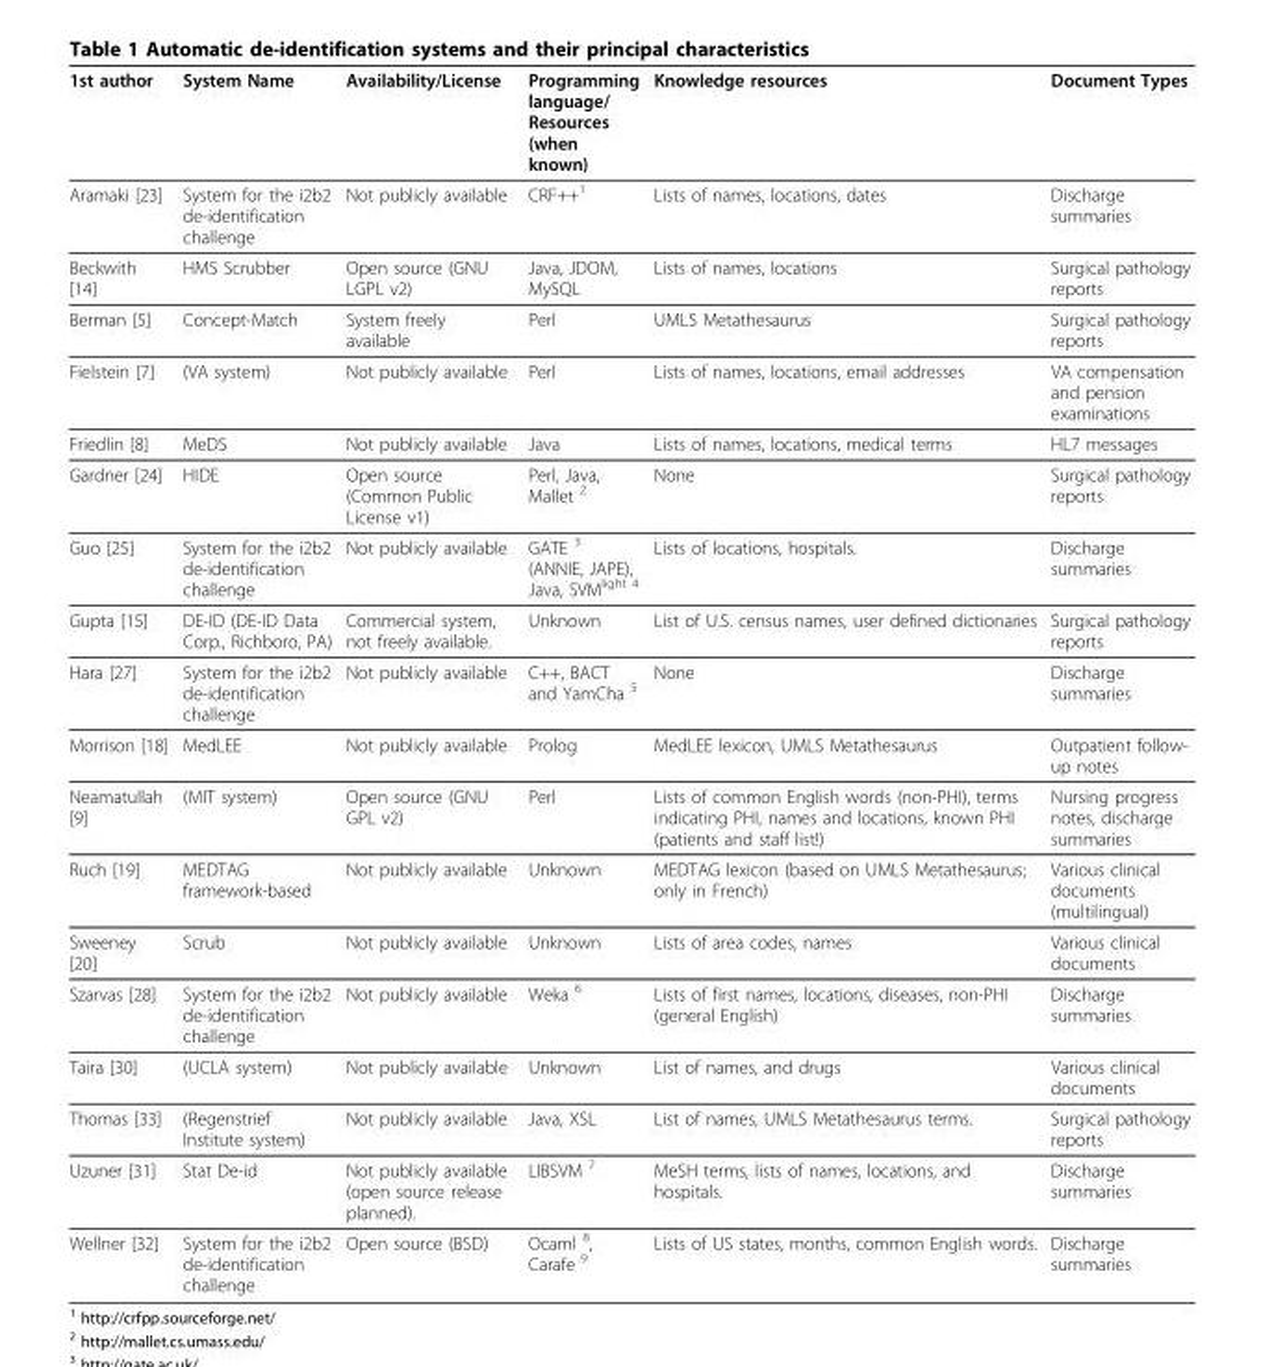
<table><thead><tr><td>1st author</td><td>System Name</td><td>Availability/License</td><td>Programming language/ Resources (when known)</td><td>Knowledge resources</td><td>Document Types</td></tr></thead><tbody><tr><td>Aramaki [23]</td><td>System for the i2b2 de-identification challenge</td><td>Not publicly available</td><td>CRF++<sup>1</sup></td><td>Lists of names, locations, dates</td><td>Discharge summaries</td></tr><tr><td>Beckwith [14]</td><td>HMS Scrubber</td><td>Open source (GNU LGPL v2)</td><td>Java, JDOM, MySQL</td><td>Lists of names, locations</td><td>Surgical pathology reports</td></tr><tr><td>Berman [5]</td><td>Concept-Match</td><td>System freely available</td><td>Perl</td><td>UMLS Metathesaurus</td><td>Surgical pathology reports</td></tr><tr><td>Fielstein [7]</td><td>(VA system)</td><td>Not publicly available</td><td>Perl</td><td>Lists of names, locations, email addresses</td><td>VA compensation and pension examinations</td></tr><tr><td>Friedlin [8]</td><td>MeDS</td><td>Not publicly available</td><td>Java</td><td>Lists of names, locations, medical terms</td><td>HL7 messages</td></tr><tr><td>Gardner [24]</td><td>HIDE</td><td>Open source (Common Public License v1)</td><td>Perl, Java, Mallet <sup>2</sup></td><td>None</td><td>Surgical pathology reports</td></tr><tr><td>Guo [25]</td><td>System for the i2b2 de-identification challenge</td><td>Not publicly available</td><td>GATE <sup>3</sup> (ANNIE, JAPE), Java, SVM<sup>light 4</sup></td><td>Lists of locations, hospitals.</td><td>Discharge summaries</td></tr><tr><td>Gupta [15]</td><td>DE-ID (DE-ID Data Corp., Richboro, PA)</td><td>Commercial system, not freely available.</td><td>Unknown</td><td>List of U.S. census names, user defined dictionaries</td><td>Surgical pathology reports</td></tr><tr><td>Hara [27]</td><td>System for the i2b2 de-identification challenge</td><td>Not publicly available</td><td>C++, BACT and YamCha <sup>5</sup></td><td>None</td><td>Discharge summaries</td></tr><tr><td>Morrison [18]</td><td>MedLEE</td><td>Not publicly available</td><td>Prolog</td><td>MedLEE lexicon, UMLS Metathesaurus</td><td>Outpatient follow- up notes</td></tr><tr><td>Neamatullah [9]</td><td>(MIT system)</td><td>Open source (GNU GPL v2)</td><td>Perl</td><td>Lists of common English words (non-PHI), terms indicating PHI, names and locations, known PHI (patients and staff list!)</td><td>Nursing progress notes, discharge summaries</td></tr><tr><td>Ruch [19]</td><td>MEDTAG framework-based</td><td>Not publicly available</td><td>Unknown</td><td>MEDTAG lexicon (based on UMLS Metathesaurus; only in French)</td><td>Various clinical documents (multilingual)</td></tr><tr><td>Sweeney [20]</td><td>Scrub</td><td>Not publicly available</td><td>Unknown</td><td>Lists of area codes, names</td><td>Various clinical documents</td></tr><tr><td>Szarvas [28]</td><td>System for the i2b2 de-identification challenge</td><td>Not publicly available</td><td>Weka <sup>6</sup></td><td>Lists of first names, locations, diseases, non-PHI (general English)</td><td>Discharge summaries</td></tr><tr><td>Taira [30]</td><td>(UCLA system)</td><td>Not publicly available</td><td>Unknown</td><td>List of names, and drugs</td><td>Various clinical documents</td></tr><tr><td>Thomas [33]</td><td>(Regenstrief Institute system)</td><td>Not publicly available</td><td>Java, XSL</td><td>List of names, UMLS Metathesaurus terms.</td><td>Surgical pathology reports</td></tr><tr><td>Uzuner [31]</td><td>Stat De-id</td><td>Not publicly available (open source release planned).</td><td>LIBSVM <sup>7</sup></td><td>MeSH terms, lists of names, locations, and hospitals.</td><td>Discharge summaries</td></tr><tr><td>Wellner [32]</td><td>System for the i2b2 de-identification challenge</td><td>Open source (BSD)</td><td>Ocaml <sup>8</sup>, Carafe <sup>9</sup></td><td>Lists of US states, months, common English words.</td><td>Discharge summaries</td></tr></tbody></table>